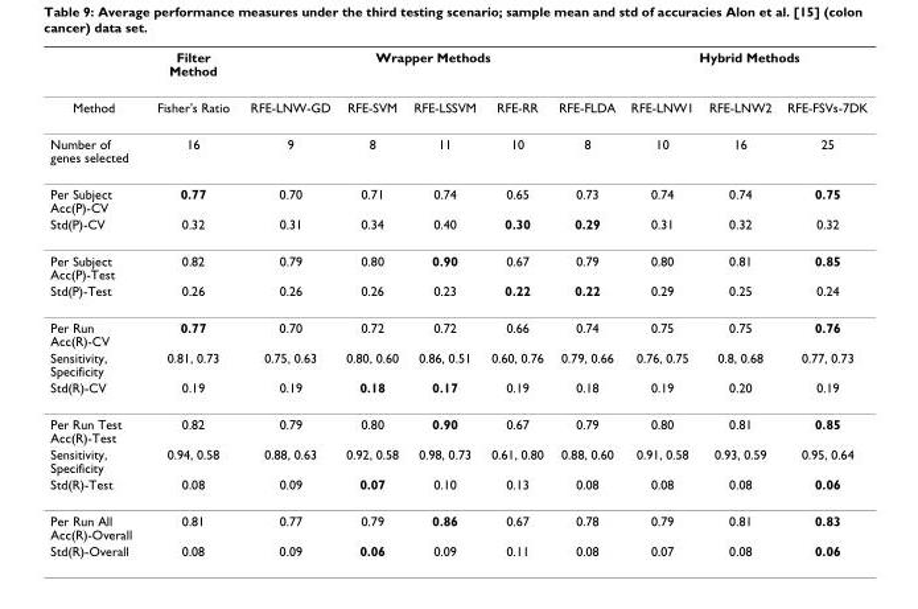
<table><thead><tr><td rowspan="2">Method</td><td rowspan="2">Filter Method Fisher&#x27;s Ratio</td><td colspan="5">Wrapper Methods</td><td colspan="3">Hybrid Methods</td></tr><tr><td>RFE-LNW-GD</td><td>RFE-SVM</td><td>RFE-LSSVM</td><td>RFE-RR</td><td>RFE-FLDA</td><td>RFE-LNW1</td><td>RFE-LNW2</td><td>RFE-FSVs-7DK</td></tr></thead><tbody><tr><td>Number of genes selected</td><td>16</td><td>9</td><td>8</td><td>11</td><td>10</td><td>8</td><td>10</td><td>16</td><td>25</td></tr><tr><td>Per Subject Acc(P)-CV</td><td>0.77</td><td>0.70</td><td>0.71</td><td>0.74</td><td>0.65</td><td>0.73</td><td>0.74</td><td>0.74</td><td>0.75</td></tr><tr><td>Std(P)-CV</td><td>0.32</td><td>0.31</td><td>0.34</td><td>0.40</td><td>0.30</td><td>0.29</td><td>0.31</td><td>0.32</td><td>0.32</td></tr><tr><td>Per Subject Acc(P)-Test</td><td>0.82</td><td>0.79</td><td>0.80</td><td>0.90</td><td>0.67</td><td>0.79</td><td>0.80</td><td>0.81</td><td>0.85</td></tr><tr><td>Std(P)-Test</td><td>0.26</td><td>0.26</td><td>0.26</td><td>0.23</td><td>0.22</td><td>0.22</td><td>0.29</td><td>0.25</td><td>0.24</td></tr><tr><td>Per Run Acc(R)-CV</td><td>0.77</td><td>0.70</td><td>0.72</td><td>0.72</td><td>0.66</td><td>0.74</td><td>0.75</td><td>0.75</td><td>0.76</td></tr><tr><td>Sensitivity, Specificity</td><td>0.81, 0.73</td><td>0.75, 0.63</td><td>0.80, 0.60</td><td>0.86, 0.51</td><td>0.60, 0.76</td><td>0.79, 0.66</td><td>0.76, 0.75</td><td>0.8, 0.68</td><td>0.77, 0.73</td></tr><tr><td>Std(R)-CV</td><td>0.19</td><td>0.19</td><td>0.18</td><td>0.17</td><td>0.19</td><td>0.18</td><td>0.19</td><td>0.20</td><td>0.19</td></tr><tr><td>Per Run Test Acc(R)-Test</td><td>0.82</td><td>0.79</td><td>0.80</td><td>0.90</td><td>0.67</td><td>0.79</td><td>0.80</td><td>0.81</td><td>0.85</td></tr><tr><td>Sensitivity, Specificity</td><td>0.94, 0.58</td><td>0.88, 0.63</td><td>0.92, 0.58</td><td>0.98, 0.73</td><td>0.61, 0.80</td><td>0.88, 0.60</td><td>0.91, 0.58</td><td>0.93, 0.59</td><td>0.95, 0.64</td></tr><tr><td>Std(R)-Test</td><td>0.08</td><td>0.09</td><td>0.07</td><td>0.10</td><td>0.13</td><td>0.08</td><td>0.08</td><td>0.08</td><td>0.06</td></tr><tr><td>Per Run All Acc(R)-Overall</td><td>0.81</td><td>0.77</td><td>0.79</td><td>0.86</td><td>0.67</td><td>0.78</td><td>0.79</td><td>0.81</td><td>0.83</td></tr><tr><td>Std(R)-Overall</td><td>0.08</td><td>0.09</td><td>0.06</td><td>0.09</td><td>0.11</td><td>0.08</td><td>0.07</td><td>0.08</td><td>0.06</td></tr></tbody></table>